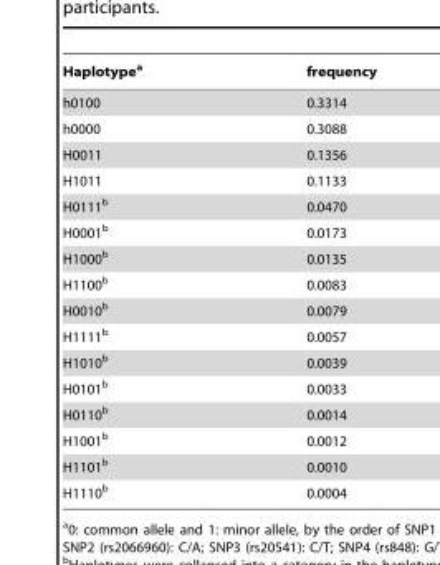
<table><thead><tr><td>Haplotype<sup>a</sup></td><td>frequency</td></tr></thead><tbody><tr><td>h0100</td><td>0.3314</td></tr><tr><td>h0000</td><td>0.3088</td></tr><tr><td>H0011</td><td>0.1356</td></tr><tr><td>H1011</td><td>0.1133</td></tr><tr><td>H0111<sup>b</sup></td><td>0.0470</td></tr><tr><td>H0001<sup>b</sup></td><td>0.0173</td></tr><tr><td>H1000<sup>b</sup></td><td>0.0135</td></tr><tr><td>H1100<sup>b</sup></td><td>0.0083</td></tr><tr><td>H0010<sup>b</sup></td><td>0.0079</td></tr><tr><td>H1111<sup>b</sup></td><td>0.0057</td></tr><tr><td>H1010<sup>b</sup></td><td>0.0039</td></tr><tr><td>H0101<sup>b</sup></td><td>0.0033</td></tr><tr><td>H0110<sup>b</sup></td><td>0.0014</td></tr><tr><td>H1001<sup>b</sup></td><td>0.0012</td></tr><tr><td>H1101<sup>b</sup></td><td>0.0010</td></tr><tr><td>H1110<sup>b</sup></td><td>0.0004</td></tr></tbody></table>